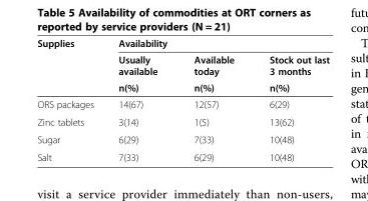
<table><thead><tr><td rowspan="3">Supplies</td><td colspan="3">Availability</td></tr><tr><td rowspan="2">Usually available n(%)</td><td rowspan="2">Available today n(%)</td><td rowspan="2">Stock out last 3 months n(%)</td></tr><tr></tr></thead><tbody><tr><td>ORS packages</td><td>14(67)</td><td>12(57)</td><td>6(29)</td></tr><tr><td>Zinc tablets</td><td>3(14)</td><td>1(5)</td><td>13(62)</td></tr><tr><td>Sugar</td><td>6(29)</td><td>7(33)</td><td>10(48)</td></tr><tr><td>Salt</td><td>7(33)</td><td>6(29)</td><td>10(48)</td></tr></tbody></table>